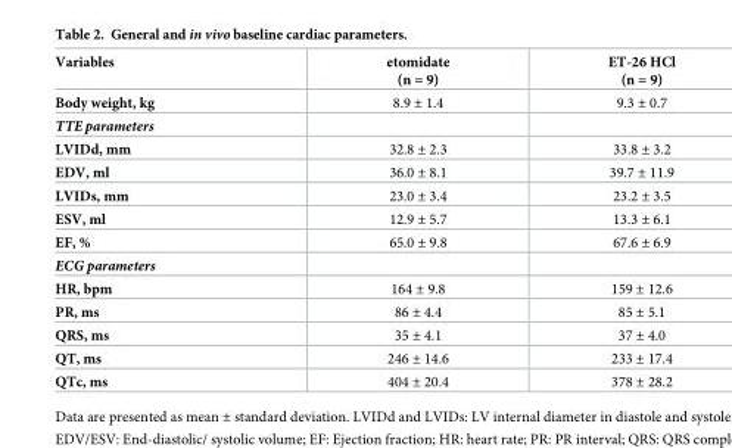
<table><thead><tr><td>Variables</td><td>etomidate (n = 9)</td><td>ET-26 HCl (n = 9)</td></tr></thead><tbody><tr><td>Body weight, kg</td><td>8.9 ± 1.4</td><td>9.3 ± 0.7</td></tr><tr><td colspan="3">TTE parameters</td></tr><tr><td>LVIDd, mm</td><td>32.8 ± 2.3</td><td>33.8 ± 3.2</td></tr><tr><td>EDV, ml</td><td>36.0 ± 8.1</td><td>39.7 ± 11.9</td></tr><tr><td>LVIDs, mm</td><td>23.0 ± 3.4</td><td>23.2 ± 3.5</td></tr><tr><td>ESV, ml</td><td>12.9 ± 5.7</td><td>13.3 ± 6.1</td></tr><tr><td>EF, %</td><td>65.0 ± 9.8</td><td>67.6 ± 6.9</td></tr><tr><td colspan="3">ECG parameters</td></tr><tr><td>HR, bpm</td><td>164 ± 9.8</td><td>159 ± 12.6</td></tr><tr><td>PR, ms</td><td>86 ± 4.4</td><td>85 ± 5.1</td></tr><tr><td>QRS, ms</td><td>35 ± 4.1</td><td>37 ± 4.0</td></tr><tr><td>QT, ms</td><td>246 ± 14.6</td><td>233 ± 17.4</td></tr><tr><td>QTc, ms</td><td>404 ± 20.4</td><td>378 ± 28.2</td></tr></tbody></table>